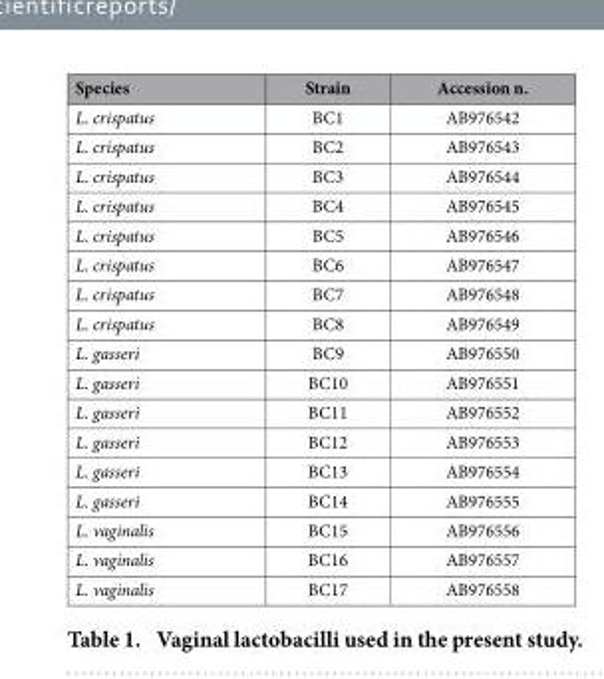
<table><thead><tr><td>Species</td><td>Strain</td><td>Accession n.</td></tr></thead><tbody><tr><td>L. crispatus</td><td>BC1</td><td>AB976542</td></tr><tr><td>L. crispatus</td><td>BC2</td><td>AB976543</td></tr><tr><td>L. crispatus</td><td>BC3</td><td>AB976544</td></tr><tr><td>L. crispatus</td><td>BC4</td><td>AB976545</td></tr><tr><td>L. crispatus</td><td>BC5</td><td>AB976546</td></tr><tr><td>L. crispatus</td><td>BC6</td><td>AB976547</td></tr><tr><td>L. crispatus</td><td>BC7</td><td>AB976548</td></tr><tr><td>L. crispatus</td><td>BC8</td><td>AB976549</td></tr><tr><td>L. gasseri</td><td>BC9</td><td>AB976550</td></tr><tr><td>L. gasseri</td><td>BC10</td><td>AB976551</td></tr><tr><td>L. gasseri</td><td>BC11</td><td>AB976552</td></tr><tr><td>L. gasseri</td><td>BC12</td><td>AB976553</td></tr><tr><td>L. gasseri</td><td>BC13</td><td>AB976554</td></tr><tr><td>L. gasseri</td><td>BC14</td><td>AB976555</td></tr><tr><td>L. vaginalis</td><td>BC15</td><td>AB976556</td></tr><tr><td>L. vaginalis</td><td>BC16</td><td>AB976557</td></tr><tr><td>L. vaginalis</td><td>BC17</td><td>AB976558</td></tr></tbody></table>